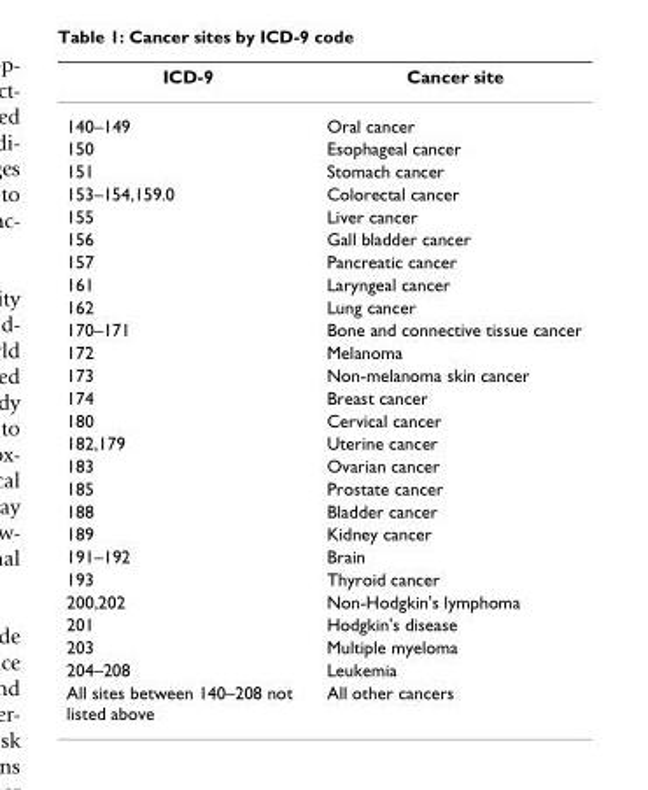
<table><thead><tr><td>ICD-9</td><td>Cancer site</td></tr></thead><tbody><tr><td>140–149</td><td>Oral cancer</td></tr><tr><td>150</td><td>Esophageal cancer</td></tr><tr><td>151</td><td>Stomach cancer</td></tr><tr><td>153–154,159.0</td><td>Colorectal cancer</td></tr><tr><td>155</td><td>Liver cancer</td></tr><tr><td>156</td><td>Gall bladder cancer</td></tr><tr><td>157</td><td>Pancreatic cancer</td></tr><tr><td>161</td><td>Laryngeal cancer</td></tr><tr><td>162</td><td>Lung cancer</td></tr><tr><td>170–171</td><td>Bone and connective tissue cancer</td></tr><tr><td>172</td><td>Melanoma</td></tr><tr><td>173</td><td>Non-melanoma skin cancer</td></tr><tr><td>174</td><td>Breast cancer</td></tr><tr><td>180</td><td>Cervical cancer</td></tr><tr><td>182,179</td><td>Uterine cancer</td></tr><tr><td>183</td><td>Ovarian cancer</td></tr><tr><td>185</td><td>Prostate cancer</td></tr><tr><td>188</td><td>Bladder cancer</td></tr><tr><td>189</td><td>Kidney cancer</td></tr><tr><td>191–192</td><td>Brain</td></tr><tr><td>193</td><td>Thyroid cancer</td></tr><tr><td>200,202</td><td>Non-Hodgkin&#x27;s lymphoma</td></tr><tr><td>201</td><td>Hodgkin&#x27;s disease</td></tr><tr><td>203</td><td>Multiple myeloma</td></tr><tr><td>204–208</td><td>Leukemia</td></tr><tr><td>All sites between 140–208 not listed above</td><td>All other cancers</td></tr></tbody></table>